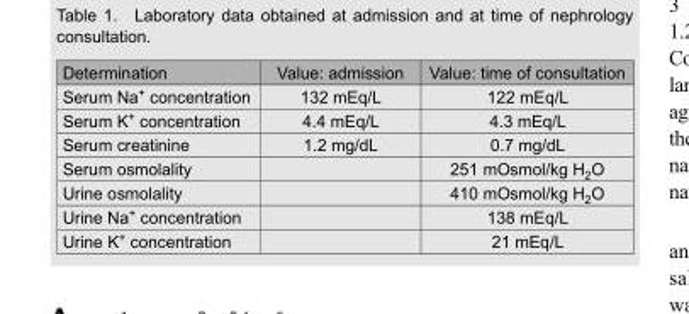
<table><thead><tr><td>Determination</td><td>Value: admission</td><td>Value: time of consultation</td></tr></thead><tbody><tr><td>Serum Na<sup>+</sup> concentration</td><td>132 mEq/L</td><td>122 mEq/L</td></tr><tr><td>Serum K<sup>+</sup> concentration</td><td>4.4 mEq/L</td><td>4.3 mEq/L</td></tr><tr><td>Serum creatinine</td><td>1.2 mg/dL</td><td>0.7 mg/dL</td></tr><tr><td>Serum osmolality</td><td></td><td>251 mOsmol/kg H<sub>2</sub>O</td></tr><tr><td>Urine osmolality</td><td></td><td>410 mOsmol/kg H<sub>2</sub>O</td></tr><tr><td>Urine Na<sup>+</sup> concentration</td><td></td><td>138 mEq/L</td></tr><tr><td>Urine K<sup>+</sup> concentration</td><td></td><td>21 mEq/L</td></tr></tbody></table>